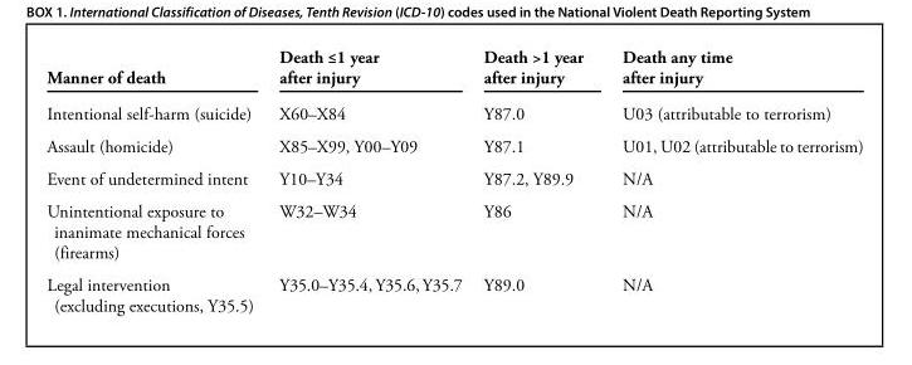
<table><thead><tr><td>Manner of death</td><td>Death ≤1 year after injury</td><td>Death &gt;1 year after injury</td><td>Death any time after injury</td></tr></thead><tbody><tr><td>Intentional self-harm (suicide)</td><td>X60–X84</td><td>Y87.0</td><td>U03 (attributable to terrorism)</td></tr><tr><td>Assault (homicide)</td><td>X85–X99, Y00–Y09</td><td>Y87.1</td><td>U01, U02 (attributable to terrorism)</td></tr><tr><td>Event of undetermined intent</td><td>Y10–Y34</td><td>Y87.2, Y89.9</td><td>N/A</td></tr><tr><td>Unintentional exposure to inanimate mechanical forces (firearms)</td><td>W32–W34</td><td>Y86</td><td>N/A</td></tr><tr><td>Legal intervention (excluding executions, Y35.5)</td><td>Y35.0–Y35.4, Y35.6, Y35.7</td><td>Y89.0</td><td>N/A</td></tr></tbody></table>